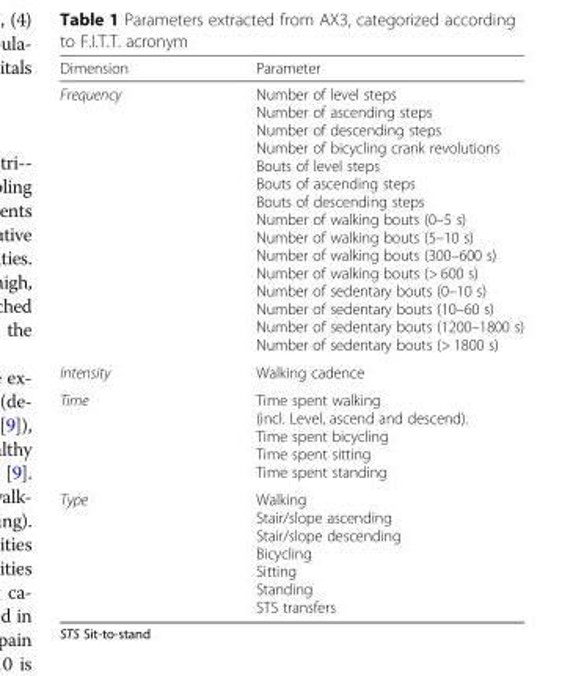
<table><thead><tr><td>Dimension</td><td>Parameter</td></tr></thead><tbody><tr><td>Frequency</td><td>Number of level steps Number of ascending steps Number of descending steps Number of bicycling crank revolutions Bouts of level steps Bouts of ascending steps Bouts of descending steps Number of walking bouts (0–5 s) Number of walking bouts (5–10 s) Number of walking bouts (300–600 s) Number of walking bouts (&gt; 600 s) Number of sedentary bouts (0–10 s) Number of sedentary bouts (10–60 s) Number of sedentary bouts (1200–1800 s) Number of sedentary bouts (&gt; 1800 s)</td></tr><tr><td>Intensity</td><td>Walking cadence</td></tr><tr><td>Time</td><td>Time spent walking (incl. Level, ascend and descend). Time spent bicycling Time spent sitting Time spent standing</td></tr><tr><td>Type</td><td>Walking Stair/slope ascending Stair/slope descending Bicycling Sitting Standing STS transfers</td></tr></tbody></table>